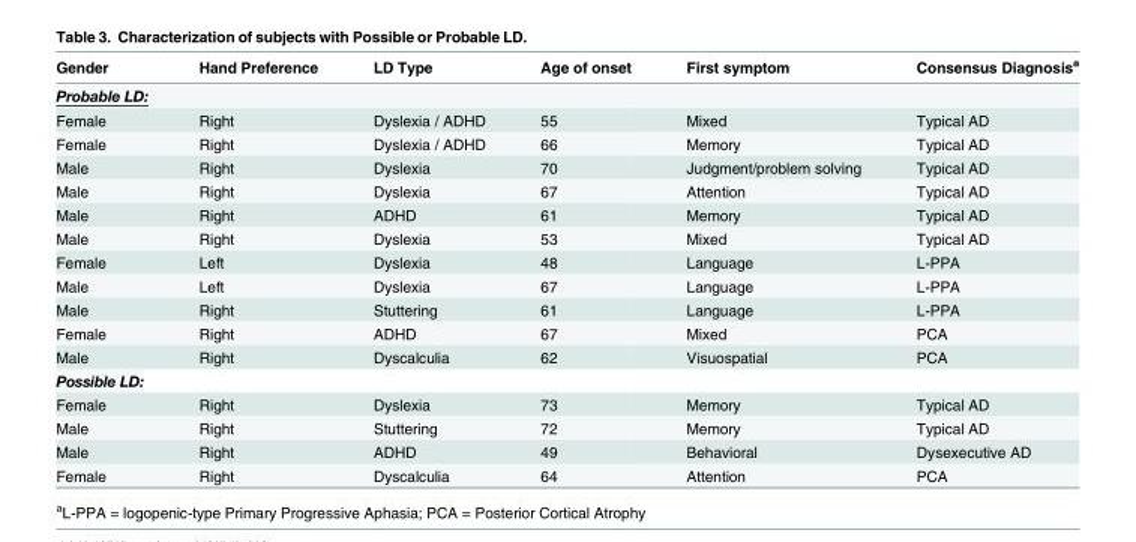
<table><thead><tr><td>Gender</td><td>Hand Preference</td><td>LD Type</td><td>Age of onset</td><td>First symptom</td><td>Consensus Diagnosis<sup>a</sup></td></tr></thead><tbody><tr><td colspan="6">Probable LD:</td></tr><tr><td>Female</td><td>Right</td><td>Dyslexia / ADHD</td><td>55</td><td>Mixed</td><td>Typical AD</td></tr><tr><td>Female</td><td>Right</td><td>Dyslexia / ADHD</td><td>66</td><td>Memory</td><td>Typical AD</td></tr><tr><td>Male</td><td>Right</td><td>Dyslexia</td><td>70</td><td>Judgment/problem solving</td><td>Typical AD</td></tr><tr><td>Male</td><td>Right</td><td>Dyslexia</td><td>67</td><td>Attention</td><td>Typical AD</td></tr><tr><td>Male</td><td>Right</td><td>ADHD</td><td>61</td><td>Memory</td><td>Typical AD</td></tr><tr><td>Male</td><td>Right</td><td>Dyslexia</td><td>53</td><td>Mixed</td><td>Typical AD</td></tr><tr><td>Female</td><td>Left</td><td>Dyslexia</td><td>48</td><td>Language</td><td>L-PPA</td></tr><tr><td>Male</td><td>Left</td><td>Dyslexia</td><td>67</td><td>Language</td><td>L-PPA</td></tr><tr><td>Male</td><td>Right</td><td>Stuttering</td><td>61</td><td>Language</td><td>L-PPA</td></tr><tr><td>Female</td><td>Right</td><td>ADHD</td><td>67</td><td>Mixed</td><td>PCA</td></tr><tr><td>Male</td><td>Right</td><td>Dyscalculia</td><td>62</td><td>Visuospatial</td><td>PCA</td></tr><tr><td colspan="6">Possible LD:</td></tr><tr><td>Female</td><td>Right</td><td>Dyslexia</td><td>73</td><td>Memory</td><td>Typical AD</td></tr><tr><td>Male</td><td>Right</td><td>Stuttering</td><td>72</td><td>Memory</td><td>Typical AD</td></tr><tr><td>Male</td><td>Right</td><td>ADHD</td><td>49</td><td>Behavioral</td><td>Dysexecutive AD</td></tr><tr><td>Female</td><td>Right</td><td>Dyscalculia</td><td>64</td><td>Attention</td><td>PCA</td></tr></tbody></table>